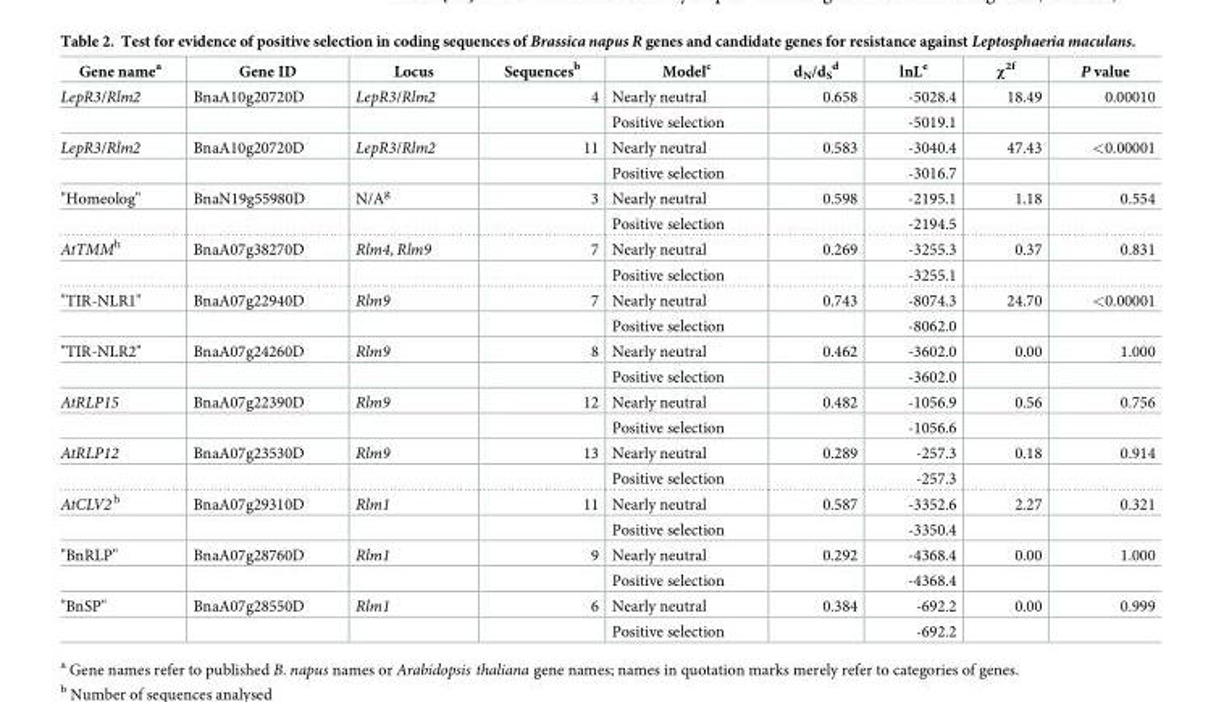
<table><thead><tr><td>Gene name<sup>a</sup></td><td>Gene ID</td><td>Locus</td><td>Sequences<sup>b</sup></td><td>Model<sup>c</sup></td><td>d<sub>N</sub>/d<sub>S</sub> <sup>d</sup></td><td>lnL<sup>e</sup></td><td>χ<sup>2f</sup></td><td>P value</td></tr></thead><tbody><tr><td rowspan="2">LepR3/Rlm2</td><td>BnaA10g20720D</td><td>LepR3/Rlm2</td><td>4</td><td>Nearly neutral</td><td>0.658</td><td>-5028.4</td><td>18.49</td><td>0.00010</td></tr><tr><td></td><td></td><td></td><td>Positive selection</td><td></td><td>-5019.1</td><td></td><td></td></tr><tr><td rowspan="2">LepR3/Rlm2</td><td>BnaA10g20720D</td><td>LepR3/Rlm2</td><td>11</td><td>Nearly neutral</td><td>0.583</td><td>-3040.4</td><td>47.43</td><td>&lt;0.00001</td></tr><tr><td></td><td></td><td></td><td>Positive selection</td><td></td><td>-3016.7</td><td></td><td></td></tr><tr><td rowspan="2">&quot;Homeolog&quot;</td><td>BnaN19g55980D</td><td>N/A<sup>g</sup></td><td>3</td><td>Nearly neutral</td><td>0.598</td><td>-2195.1</td><td>1.18</td><td>0.554</td></tr><tr><td></td><td></td><td></td><td>Positive selection</td><td></td><td>-2194.5</td><td></td><td></td></tr><tr><td rowspan="2">AtTMM<sup>h</sup></td><td>BnaA07g38270D</td><td>Rlm4, Rlm9</td><td>7</td><td>Nearly neutral</td><td>0.269</td><td>-3255.3</td><td>0.37</td><td>0.831</td></tr><tr><td></td><td></td><td></td><td>Positive selection</td><td></td><td>-3255.1</td><td></td><td></td></tr><tr><td rowspan="2">&quot;TIR-NLR1&quot;</td><td>BnaA07g22940D</td><td>Rlm9</td><td>7</td><td>Nearly neutral</td><td>0.743</td><td>-8074.3</td><td>24.70</td><td>&lt;0.00001</td></tr><tr><td></td><td></td><td></td><td>Positive selection</td><td></td><td>-8062.0</td><td></td><td></td></tr><tr><td rowspan="2">&quot;TIR-NLR2&quot;</td><td>BnaA07g24260D</td><td>Rlm9</td><td>8</td><td>Nearly neutral</td><td>0.462</td><td>-3602.0</td><td>0.00</td><td>1.000</td></tr><tr><td></td><td></td><td></td><td>Positive selection</td><td></td><td>-3602.0</td><td></td><td></td></tr><tr><td rowspan="2">AtRLP15</td><td>BnaA07g22390D</td><td>Rlm9</td><td>12</td><td>Nearly neutral</td><td>0.482</td><td>-1056.9</td><td>0.56</td><td>0.756</td></tr><tr><td></td><td></td><td></td><td>Positive selection</td><td></td><td>-1056.6</td><td></td><td></td></tr><tr><td rowspan="2">AtRLP12</td><td>BnaA07g23530D</td><td>Rlm9</td><td>13</td><td>Nearly neutral</td><td>0.289</td><td>-257.3</td><td>0.18</td><td>0.914</td></tr><tr><td></td><td></td><td></td><td>Positive selection</td><td></td><td>-257.3</td><td></td><td></td></tr><tr><td rowspan="2">AtCLV2<sup>h</sup></td><td>BnaA07g29310D</td><td>Rlm1</td><td>11</td><td>Nearly neutral</td><td>0.587</td><td>-3352.6</td><td>2.27</td><td>0.321</td></tr><tr><td></td><td></td><td></td><td>Positive selection</td><td></td><td>-3350.4</td><td></td><td></td></tr><tr><td rowspan="2">&quot;BnRLP&quot;</td><td>BnaA07g28760D</td><td>Rlm1</td><td>9</td><td>Nearly neutral</td><td>0.292</td><td>-4368.4</td><td>0.00</td><td>1.000</td></tr><tr><td></td><td></td><td></td><td>Positive selection</td><td></td><td>-4368.4</td><td></td><td></td></tr><tr><td rowspan="2">&quot;BnSP&quot;</td><td>BnaA07g28550D</td><td>Rlm1</td><td>6</td><td>Nearly neutral</td><td>0.384</td><td>-692.2</td><td>0.00</td><td>0.999</td></tr><tr><td></td><td></td><td></td><td>Positive selection</td><td></td><td>-692.2</td><td></td><td></td></tr></tbody></table>